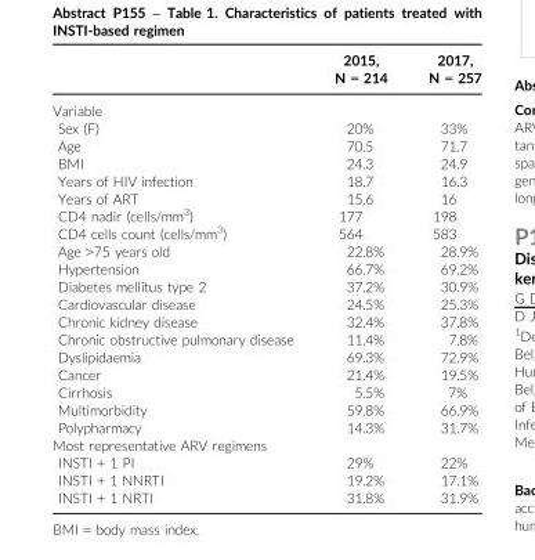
<table><thead><tr><td></td><td>2015, N = 214</td><td>2017, N = 257</td></tr></thead><tbody><tr><td colspan="3">Variable</td></tr><tr><td>Sex (F)</td><td>20%</td><td>33%</td></tr><tr><td>Age</td><td>70.5</td><td>71.7</td></tr><tr><td>BMI</td><td>24.3</td><td>24.9</td></tr><tr><td>Years of HIV infection</td><td>18.7</td><td>16.3</td></tr><tr><td>Years of ART</td><td>15.6</td><td>16</td></tr><tr><td>CD4 nadir (cells/mm<sup>3</sup>)</td><td>177</td><td>198</td></tr><tr><td>CD4 cells count (cells/mm<sup>3</sup>)</td><td>564</td><td>583</td></tr><tr><td>Age &gt;75 years old</td><td>22.8%</td><td>28.9%</td></tr><tr><td>Hypertension</td><td>66.7%</td><td>69.2%</td></tr><tr><td>Diabetes mellitus type 2</td><td>37.2%</td><td>30.9%</td></tr><tr><td>Cardiovascular disease</td><td>24.5%</td><td>25.3%</td></tr><tr><td>Chronic kidney disease</td><td>32.4%</td><td>37.8%</td></tr><tr><td>Chronic obstructive pulmonary disease</td><td>11.4%</td><td>7.8%</td></tr><tr><td>Dyslipidaemia</td><td>69.3%</td><td>72.9%</td></tr><tr><td>Cancer</td><td>21.4%</td><td>19.5%</td></tr><tr><td>Cirrhosis</td><td>5.5%</td><td>7%</td></tr><tr><td>Multimorbidity</td><td>59.8%</td><td>66.9%</td></tr><tr><td>Polypharmacy</td><td>14.3%</td><td>31.7%</td></tr><tr><td colspan="3">Most representative ARV regimens</td></tr><tr><td>INSTI + 1 PI</td><td>29%</td><td>22%</td></tr><tr><td>INSTI + 1 NNRTI</td><td>19.2%</td><td>17.1%</td></tr><tr><td>INSTI + 1 NRTI</td><td>31.8%</td><td>31.9%</td></tr></tbody></table>